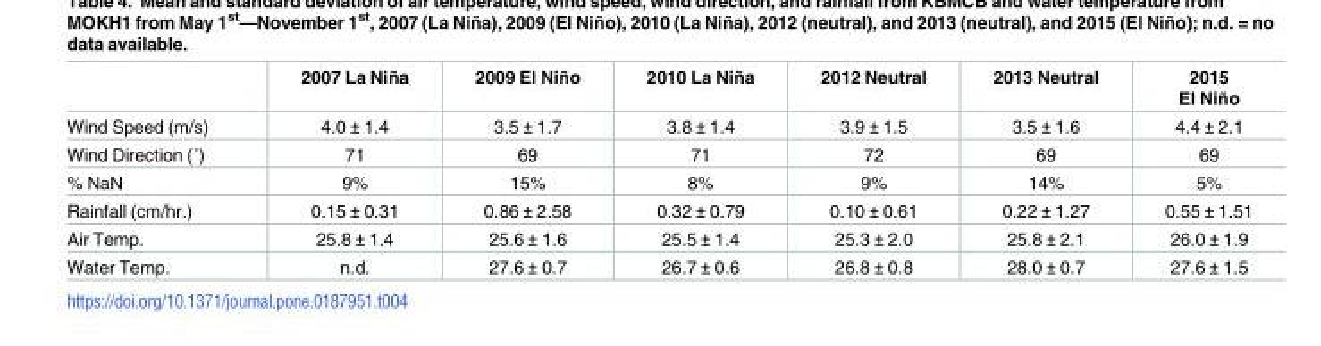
<table><thead><tr><td></td><td>2007 La Niña</td><td>2009 El Niño</td><td>2010 La Niña</td><td>2012 Neutral</td><td>2013 Neutral</td><td>2015 El Niño</td></tr></thead><tbody><tr><td>Wind Speed (m/s)</td><td>4.0 ± 1.4</td><td>3.5 ± 1.7</td><td>3.8 ± 1.4</td><td>3.9 ± 1.5</td><td>3.5 ± 1.6</td><td>4.4 ± 2.1</td></tr><tr><td>Wind Direction (˚)</td><td>71</td><td>69</td><td>71</td><td>72</td><td>69</td><td>69</td></tr><tr><td>% NaN</td><td>9%</td><td>15%</td><td>8%</td><td>9%</td><td>14%</td><td>5%</td></tr><tr><td>Rainfall (cm/hr.)</td><td>0.15 ± 0.31</td><td>0.86 ± 2.58</td><td>0.32 ± 0.79</td><td>0.10 ± 0.61</td><td>0.22 ± 1.27</td><td>0.55 ± 1.51</td></tr><tr><td>Air Temp.</td><td>25.8 ± 1.4</td><td>25.6 ± 1.6</td><td>25.5 ± 1.4</td><td>25.3 ± 2.0</td><td>25.8 ± 2.1</td><td>26.0 ± 1.9</td></tr><tr><td>Water Temp.</td><td>n.d.</td><td>27.6 ± 0.7</td><td>26.7 ± 0.6</td><td>26.8 ± 0.8</td><td>28.0 ± 0.7</td><td>27.6 ± 1.5</td></tr></tbody></table>